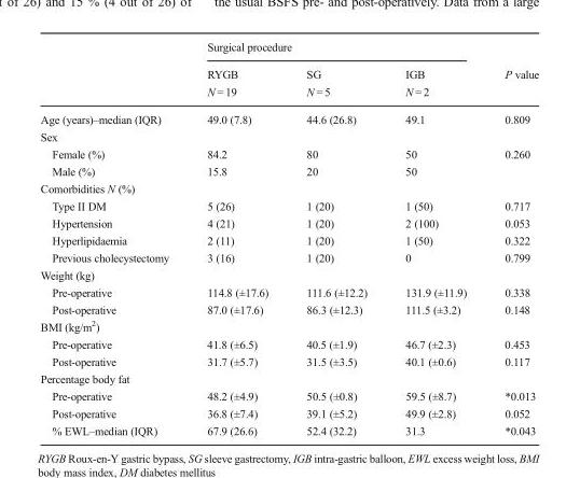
<table><thead><tr><td rowspan="2"></td><td colspan="3">Surgical procedure</td><td rowspan="2">P value</td></tr><tr><td>RYGB N = 19</td><td>SG N = 5</td><td>IGB N = 2</td></tr></thead><tbody><tr><td>Age (years)–median (IQR)</td><td>49.0 (7.8)</td><td>44.6 (26.8)</td><td>49.1</td><td>0.809</td></tr><tr><td colspan="5">Sex</td></tr><tr><td>Female (%)</td><td>84.2</td><td>80</td><td>50</td><td>0.260</td></tr><tr><td>Male (%)</td><td>15.8</td><td>20</td><td>50</td><td></td></tr><tr><td colspan="5">Comorbidities N (%)</td></tr><tr><td>Type II DM</td><td>5 (26)</td><td>1 (20)</td><td>1 (50)</td><td>0.717</td></tr><tr><td>Hypertension</td><td>4 (21)</td><td>1 (20)</td><td>2 (100)</td><td>0.053</td></tr><tr><td>Hyperlipidaemia</td><td>2 (11)</td><td>1 (20)</td><td>1 (50)</td><td>0.322</td></tr><tr><td>Previous cholecystectomy</td><td>3 (16)</td><td>1 (20)</td><td>0</td><td>0.799</td></tr><tr><td colspan="5">Weight (kg)</td></tr><tr><td>Pre-operative</td><td>114.8 (±17.6)</td><td>111.6 (±12.2)</td><td>131.9 (±11.9)</td><td>0.338</td></tr><tr><td>Post-operative</td><td>87.0 (±17.6)</td><td>86.3 (±12.3)</td><td>111.5 (±3.2)</td><td>0.148</td></tr><tr><td colspan="5">BMI (kg/m<sup>2</sup>)</td></tr><tr><td>Pre-operative</td><td>41.8 (±6.5)</td><td>40.5 (±1.9)</td><td>46.7 (±2.3)</td><td>0.453</td></tr><tr><td>Post-operative</td><td>31.7 (±5.7)</td><td>31.5 (±3.5)</td><td>40.1 (±0.6)</td><td>0.117</td></tr><tr><td colspan="5">Percentage body fat</td></tr><tr><td>Pre-operative</td><td>48.2 (±4.9)</td><td>50.5 (±0.8)</td><td>59.5 (±8.7)</td><td>*0.013</td></tr><tr><td>Post-operative</td><td>36.8 (±7.4)</td><td>39.1 (±5.2)</td><td>49.9 (±2.8)</td><td>0.052</td></tr><tr><td>% EWL–median (IQR)</td><td>67.9 (26.6)</td><td>52.4 (32.2)</td><td>31.3</td><td>*0.043</td></tr></tbody></table>